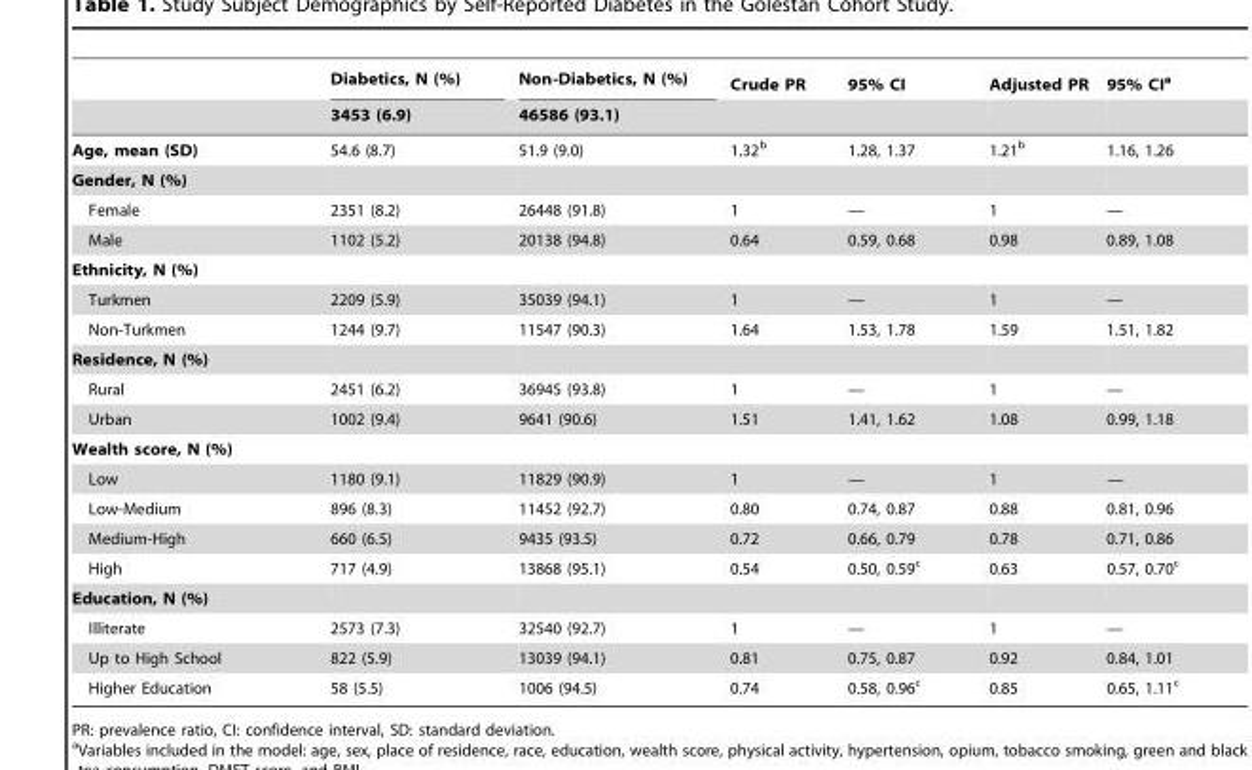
<table><thead><tr><td rowspan="2"></td><td rowspan="2">Diabetics, N (%) 3453 (6.9)</td><td rowspan="2">Non-Diabetics, N (%) 46586 (93.1)</td><td rowspan="2">Crude PR</td><td rowspan="2">95% CI</td><td rowspan="2">Adjusted PR</td><td rowspan="2">95% CI<sup>a</sup></td></tr><tr></tr></thead><tbody><tr><td>Age, mean (SD)</td><td>54.6 (8.7)</td><td>51.9 (9.0)</td><td>1.32<sup>b</sup></td><td>1.28, 1.37</td><td>1.21<sup>b</sup></td><td>1.16, 1.26</td></tr><tr><td colspan="7">Gender, N (%)</td></tr><tr><td>Female</td><td>2351 (8.2)</td><td>26448 (91.8)</td><td>1</td><td>—</td><td>1</td><td>—</td></tr><tr><td>Male</td><td>1102 (5.2)</td><td>20138 (94.8)</td><td>0.64</td><td>0.59, 0.68</td><td>0.98</td><td>0.89, 1.08</td></tr><tr><td colspan="7">Ethnicity, N (%)</td></tr><tr><td>Turkmen</td><td>2209 (5.9)</td><td>35039 (94.1)</td><td>1</td><td>—</td><td>1</td><td>—</td></tr><tr><td>Non-Turkmen</td><td>1244 (9.7)</td><td>11547 (90.3)</td><td>1.64</td><td>1.53, 1.78</td><td>1.59</td><td>1.51, 1.82</td></tr><tr><td colspan="7">Residence, N (%)</td></tr><tr><td>Rural</td><td>2451 (6.2)</td><td>36945 (93.8)</td><td>1</td><td>—</td><td>1</td><td>—</td></tr><tr><td>Urban</td><td>1002 (9.4)</td><td>9641 (90.6)</td><td>1.51</td><td>1.41, 1.62</td><td>1.08</td><td>0.99, 1.18</td></tr><tr><td colspan="7">Wealth score, N (%)</td></tr><tr><td>Low</td><td>1180 (9.1)</td><td>11829 (90.9)</td><td>1</td><td>—</td><td>1</td><td>—</td></tr><tr><td>Low-Medium</td><td>896 (8.3)</td><td>11452 (92.7)</td><td>0.80</td><td>0.74, 0.87</td><td>0.88</td><td>0.81, 0.96</td></tr><tr><td>Medium-High</td><td>660 (6.5)</td><td>9435 (93.5)</td><td>0.72</td><td>0.66, 0.79</td><td>0.78</td><td>0.71, 0.86</td></tr><tr><td>High</td><td>717 (4.9)</td><td>13868 (95.1)</td><td>0.54</td><td>0.50, 0.59<sup>c</sup></td><td>0.63</td><td>0.57, 0.70<sup>c</sup></td></tr><tr><td colspan="7">Education, N (%)</td></tr><tr><td>Illiterate</td><td>2573 (7.3)</td><td>32540 (92.7)</td><td>1</td><td>—</td><td>1</td><td>—</td></tr><tr><td>Up to High School</td><td>822 (5.9)</td><td>13039 (94.1)</td><td>0.81</td><td>0.75, 0.87</td><td>0.92</td><td>0.84, 1.01</td></tr><tr><td>Higher Education</td><td>58 (5.5)</td><td>1006 (94.5)</td><td>0.74</td><td>0.58, 0.96<sup>c</sup></td><td>0.85</td><td>0.65, 1.11<sup>c</sup></td></tr></tbody></table>